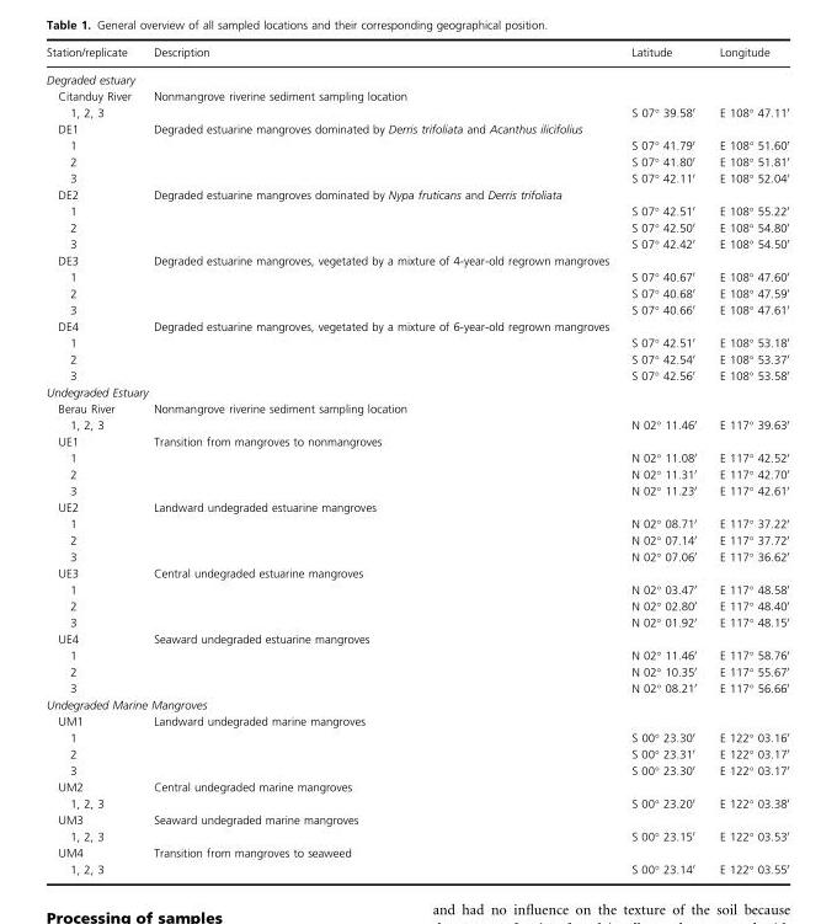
<table><thead><tr><td>Station/replicate</td><td>Description</td><td>Latitude</td><td>Longitude</td></tr></thead><tbody><tr><td colspan="4">Degraded estuary</td></tr><tr><td>Citanduy River</td><td>Nonmangrove riverine sediment sampling location</td><td></td><td></td></tr><tr><td>1, 2, 3</td><td></td><td>S 07° 39.58′</td><td>E 108° 47.11′</td></tr><tr><td>DE1</td><td>Degraded estuarine mangroves dominated by Derris trifoliata and Acanthus ilicifolius</td><td></td><td></td></tr><tr><td>1</td><td></td><td>S 07° 41.79′</td><td>E 108° 51.60′</td></tr><tr><td>2</td><td></td><td>S 07° 41.80′</td><td>E 108° 51.81′</td></tr><tr><td>3</td><td></td><td>S 07° 42.11′</td><td>E 108° 52.04′</td></tr><tr><td>DE2</td><td>Degraded estuarine mangroves dominated by Nypa fruticans and Derris trifoliata</td><td></td><td></td></tr><tr><td>1</td><td></td><td>S 07° 42.51′</td><td>E 108° 55.22′</td></tr><tr><td>2</td><td></td><td>S 07° 42.50′</td><td>E 108° 54.80′</td></tr><tr><td>3</td><td></td><td>S 07° 42.42′</td><td>E 108° 54.50′</td></tr><tr><td>DE3</td><td>Degraded estuarine mangroves, vegetated by a mixture of 4-year-old regrown mangroves</td><td></td><td></td></tr><tr><td>1</td><td></td><td>S 07° 40.67′</td><td>E 108° 47.60′</td></tr><tr><td>2</td><td></td><td>S 07° 40.68′</td><td>E 108° 47.59′</td></tr><tr><td>3</td><td></td><td>S 07° 40.66′</td><td>E 108° 47.61′</td></tr><tr><td>DE4</td><td>Degraded estuarine mangroves, vegetated by a mixture of 6-year-old regrown mangroves</td><td></td><td></td></tr><tr><td>1</td><td></td><td>S 07° 42.51′</td><td>E 108° 53.18′</td></tr><tr><td>2</td><td></td><td>S 07° 42.54′</td><td>E 108° 53.37′</td></tr><tr><td>3</td><td></td><td>S 07° 42.56′</td><td>E 108° 53.58′</td></tr><tr><td colspan="4">Undegraded Estuary</td></tr><tr><td>Berau River</td><td>Nonmangrove riverine sediment sampling location</td><td></td><td></td></tr><tr><td>1, 2, 3</td><td></td><td>N 02° 11.46′</td><td>E 117° 39.63′</td></tr><tr><td>UE1</td><td>Transition from mangroves to nonmangroves</td><td></td><td></td></tr><tr><td>1</td><td></td><td>N 02° 11.08′</td><td>E 117° 42.52′</td></tr><tr><td>2</td><td></td><td>N 02° 11.31′</td><td>E 117° 42.70′</td></tr><tr><td>3</td><td></td><td>N 02° 11.23′</td><td>E 117° 42.61′</td></tr><tr><td>UE2</td><td>Landward undegraded estuarine mangroves</td><td></td><td></td></tr><tr><td>1</td><td></td><td>N 02° 08.71′</td><td>E 117° 37.22′</td></tr><tr><td>2</td><td></td><td>N 02° 07.14′</td><td>E 117° 37.72′</td></tr><tr><td>3</td><td></td><td>N 02° 07.06′</td><td>E 117° 36.62′</td></tr><tr><td>UE3</td><td>Central undegraded estuarine mangroves</td><td></td><td></td></tr><tr><td>1</td><td></td><td>N 02° 03.47′</td><td>E 117° 48.58′</td></tr><tr><td>2</td><td></td><td>N 02° 02.80′</td><td>E 117° 48.40′</td></tr><tr><td>3</td><td></td><td>N 02° 01.92′</td><td>E 117° 48.15′</td></tr><tr><td>UE4</td><td>Seaward undegraded estuarine mangroves</td><td></td><td></td></tr><tr><td>1</td><td></td><td>N 02° 11.46′</td><td>E 117° 58.76′</td></tr><tr><td>2</td><td></td><td>N 02° 10.35′</td><td>E 117° 55.67′</td></tr><tr><td>3</td><td></td><td>N 02° 08.21′</td><td>E 117° 56.66′</td></tr><tr><td colspan="4">Undegraded Marine Mangroves</td></tr><tr><td>UM1</td><td>Landward undegraded marine mangroves</td><td></td><td></td></tr><tr><td>1</td><td></td><td>S 00° 23.30′</td><td>E 122° 03.16′</td></tr><tr><td>2</td><td></td><td>S 00° 23.31′</td><td>E 122° 03.17′</td></tr><tr><td>3</td><td></td><td>S 00° 23.30′</td><td>E 122° 03.17′</td></tr><tr><td>UM2</td><td>Central undegraded marine mangroves</td><td></td><td></td></tr><tr><td>1, 2, 3</td><td></td><td>S 00° 23.20′</td><td>E 122° 03.38′</td></tr><tr><td>UM3</td><td>Seaward undegraded marine mangroves</td><td></td><td></td></tr><tr><td>1, 2, 3</td><td></td><td>S 00° 23.15′</td><td>E 122° 03.53′</td></tr><tr><td>UM4</td><td>Transition from mangroves to seaweed</td><td></td><td></td></tr><tr><td>1, 2, 3</td><td></td><td>S 00° 23.14′</td><td>E 122° 03.55′</td></tr></tbody></table>